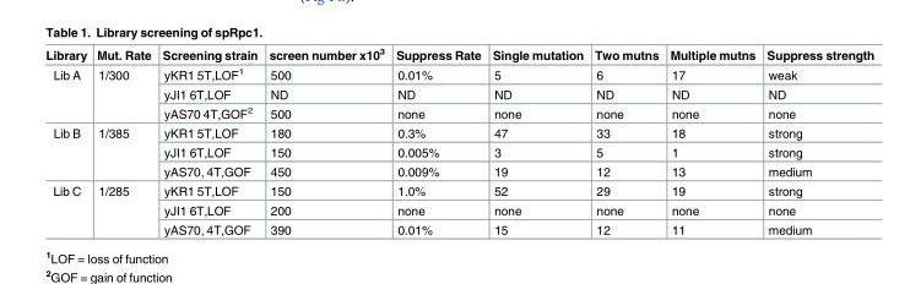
<table><thead><tr><td>Library</td><td>Mut. Rate</td><td>Screening strain</td><td>screen number x10<sup>3</sup></td><td>Suppress Rate</td><td>Single mutation</td><td>Two mutns</td><td>Multiple mutns</td><td>Suppress strength</td></tr></thead><tbody><tr><td rowspan="3">Lib A</td><td rowspan="3">1/300</td><td>yKR1 5T,LOF<sup>1</sup></td><td>500</td><td>0.01%</td><td>5</td><td>6</td><td>17</td><td>weak</td></tr><tr><td>yJI1 6T,LOF</td><td>ND</td><td>ND</td><td>ND</td><td>ND</td><td>ND</td><td>ND</td></tr><tr><td>yAS70 4T,GOF<sup>2</sup></td><td>500</td><td>none</td><td>none</td><td>none</td><td>none</td><td>none</td></tr><tr><td rowspan="3">Lib B</td><td rowspan="3">1/385</td><td>yKR1 5T,LOF</td><td>180</td><td>0.3%</td><td>47</td><td>33</td><td>18</td><td>strong</td></tr><tr><td>yJI1 6T,LOF</td><td>150</td><td>0.005%</td><td>3</td><td>5</td><td>1</td><td>strong</td></tr><tr><td>yAS70, 4T,GOF</td><td>450</td><td>0.009%</td><td>19</td><td>12</td><td>13</td><td>medium</td></tr><tr><td rowspan="3">Lib C</td><td rowspan="3">1/285</td><td>yKR1 5T,LOF</td><td>150</td><td>1.0%</td><td>52</td><td>29</td><td>19</td><td>strong</td></tr><tr><td>yJI1 6T,LOF</td><td>200</td><td>none</td><td>none</td><td>none</td><td>none</td><td>none</td></tr><tr><td>yAS70, 4T,GOF</td><td>390</td><td>0.01%</td><td>15</td><td>12</td><td>11</td><td>medium</td></tr></tbody></table>